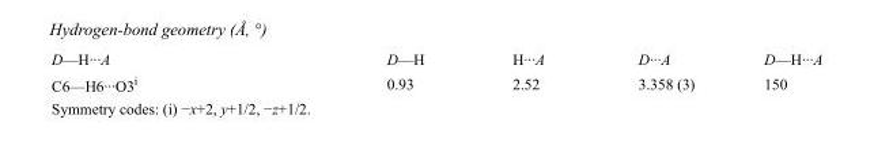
<table><tbody><tr><td>D—H···A</td><td>D—H</td><td>H···A</td><td>D···A</td><td>D—H···A</td></tr><tr><td>C6—H6···O3<sup>i</sup></td><td>0.93</td><td>2.52</td><td>3.358 (3)</td><td>150</td></tr></tbody></table>